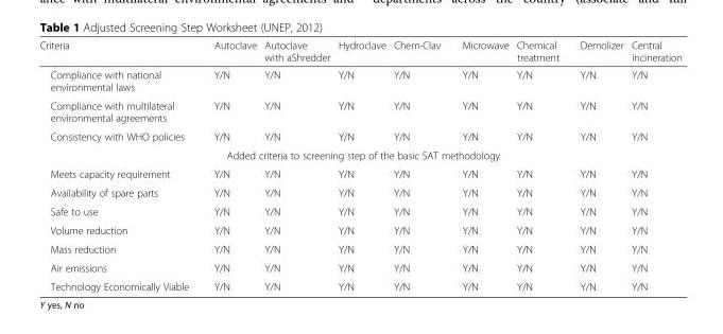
<table><thead><tr><td>Criteria</td><td>Autoclave</td><td>Autoclave with aShredder</td><td>Hydroclave</td><td>Chem-Clav</td><td>Microwave</td><td>Chemical treatment</td><td>Demolizer</td><td>Central incineration</td></tr></thead><tbody><tr><td>Compliance with national environmental laws</td><td>Y/N</td><td>Y/N</td><td>Y/N</td><td>Y/N</td><td>Y/N</td><td>Y/N</td><td>Y/N</td><td>Y/N</td></tr><tr><td>Compliance with multilateral environmental agreements</td><td>Y/N</td><td>Y/N</td><td>Y/N</td><td>Y/N</td><td>Y/N</td><td>Y/N</td><td>Y/N</td><td>Y/N</td></tr><tr><td>Consistency with WHO policies</td><td>Y/N</td><td>Y/N</td><td>Y/N</td><td>Y/N</td><td>Y/N</td><td>Y/N</td><td>Y/N</td><td>Y/N</td></tr><tr><td colspan="9">Added criteria to screening step of the basic SAT methodology</td></tr><tr><td>Meets capacity requirement</td><td>Y/N</td><td>Y/N</td><td>Y/N</td><td>Y/N</td><td>Y/N</td><td>Y/N</td><td>Y/N</td><td>Y/N</td></tr><tr><td>Availability of spare parts</td><td>Y/N</td><td>Y/N</td><td>Y/N</td><td>Y/N</td><td>Y/N</td><td>Y/N</td><td>Y/N</td><td>Y/N</td></tr><tr><td>Safe to use</td><td>Y/N</td><td>Y/N</td><td>Y/N</td><td>Y/N</td><td>Y/N</td><td>Y/N</td><td>Y/N</td><td>Y/N</td></tr><tr><td>Volume reduction</td><td>Y/N</td><td>Y/N</td><td>Y/N</td><td>Y/N</td><td>Y/N</td><td>Y/N</td><td>Y/N</td><td>Y/N</td></tr><tr><td>Mass reduction</td><td>Y/N</td><td>Y/N</td><td>Y/N</td><td>Y/N</td><td>Y/N</td><td>Y/N</td><td>Y/N</td><td>Y/N</td></tr><tr><td>Air emissions</td><td>Y/N</td><td>Y/N</td><td>Y/N</td><td>Y/N</td><td>Y/N</td><td>Y/N</td><td>Y/N</td><td>Y/N</td></tr><tr><td>Technology Economically Viable</td><td>Y/N</td><td>Y/N</td><td>Y/N</td><td>Y/N</td><td>Y/N</td><td>Y/N</td><td>Y/N</td><td>Y/N</td></tr></tbody></table>